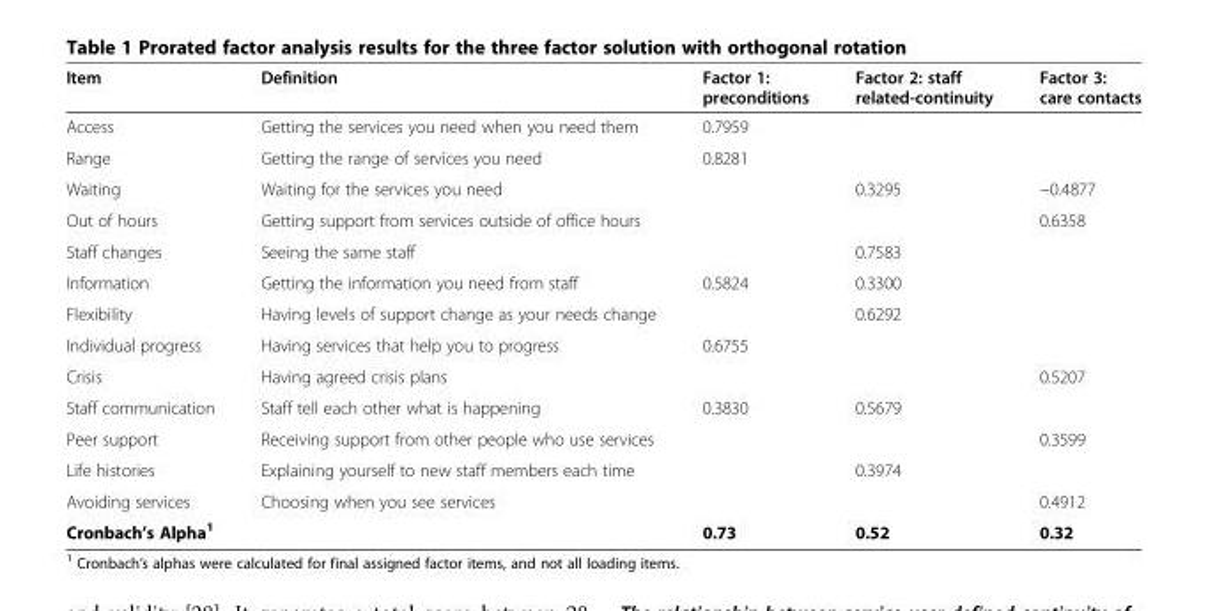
<table><thead><tr><td>Item</td><td>Definition</td><td>Factor 1: preconditions</td><td>Factor 2: staff related-continuity</td><td>Factor 3: care contacts</td></tr></thead><tbody><tr><td>Access</td><td>Getting the services you need when you need them</td><td>0.7959</td><td></td><td></td></tr><tr><td>Range</td><td>Getting the range of services you need</td><td>0.8281</td><td></td><td></td></tr><tr><td>Waiting</td><td>Waiting for the services you need</td><td></td><td>0.3295</td><td>−0.4877</td></tr><tr><td>Out of hours</td><td>Getting support from services outside of office hours</td><td></td><td></td><td>0.6358</td></tr><tr><td>Staff changes</td><td>Seeing the same staff</td><td></td><td>0.7583</td><td></td></tr><tr><td>Information</td><td>Getting the information you need from staff</td><td>0.5824</td><td>0.3300</td><td></td></tr><tr><td>Flexibility</td><td>Having levels of support change as your needs change</td><td></td><td>0.6292</td><td></td></tr><tr><td>Individual progress</td><td>Having services that help you to progress</td><td>0.6755</td><td></td><td></td></tr><tr><td>Crisis</td><td>Having agreed crisis plans</td><td></td><td></td><td>0.5207</td></tr><tr><td>Staff communication</td><td>Staff tell each other what is happening</td><td>0.3830</td><td>0.5679</td><td></td></tr><tr><td>Peer support</td><td>Receiving support from other people who use services</td><td></td><td></td><td>0.3599</td></tr><tr><td>Life histories</td><td>Explaining yourself to new staff members each time</td><td></td><td>0.3974</td><td></td></tr><tr><td>Avoiding services</td><td>Choosing when you see services</td><td></td><td></td><td>0.4912</td></tr><tr><td>Cronbach’s Alpha<sup>1</sup></td><td></td><td>0.73</td><td>0.52</td><td>0.32</td></tr></tbody></table>